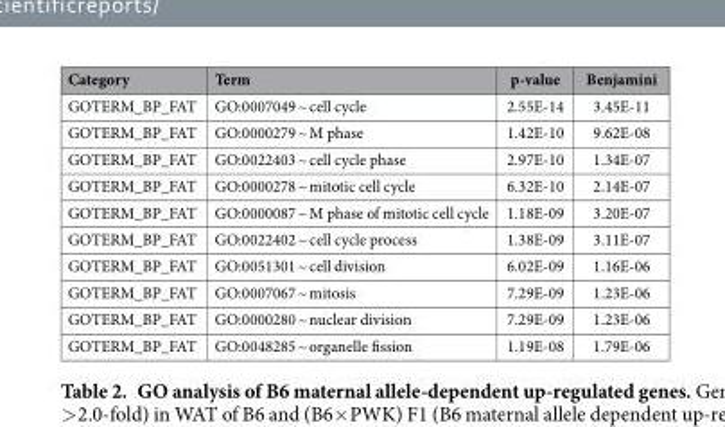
<table><thead><tr><td>Category</td><td>Term</td><td>p-value</td><td>Benjamini</td></tr></thead><tbody><tr><td>GOTERM_BP_FAT</td><td>GO:0007049 ~ cell cycle</td><td>2.55E-14</td><td>3.45E-11</td></tr><tr><td>GOTERM_BP_FAT</td><td>GO:0000279 ~ M phase</td><td>1.42E-10</td><td>9.62E-08</td></tr><tr><td>GOTERM_BP_FAT</td><td>GO:0022403 ~ cell cycle phase</td><td>2.97E-10</td><td>1.34E-07</td></tr><tr><td>GOTERM_BP_FAT</td><td>GO:0000278 ~ mitotic cell cycle</td><td>6.32E-10</td><td>2.14E-07</td></tr><tr><td>GOTERM_BP_FAT</td><td>GO:0000087 ~ M phase of mitotic cell cycle</td><td>1.18E-09</td><td>3.20E-07</td></tr><tr><td>GOTERM_BP_FAT</td><td>GO:0022402 ~ cell cycle process</td><td>1.38E-09</td><td>3.11E-07</td></tr><tr><td>GOTERM_BP_FAT</td><td>GO:0051301 ~ cell division</td><td>6.02E-09</td><td>1.16E-06</td></tr><tr><td>GOTERM_BP_FAT</td><td>GO:0007067 ~ mitosis</td><td>7.29E-09</td><td>1.23E-06</td></tr><tr><td>GOTERM_BP_FAT</td><td>GO:0000280 ~ nuclear division</td><td>7.29E-09</td><td>1.23E-06</td></tr><tr><td>GOTERM_BP_FAT</td><td>GO:0048285 ~ organelle fission</td><td>1.19E-08</td><td>1.79E-06</td></tr></tbody></table>